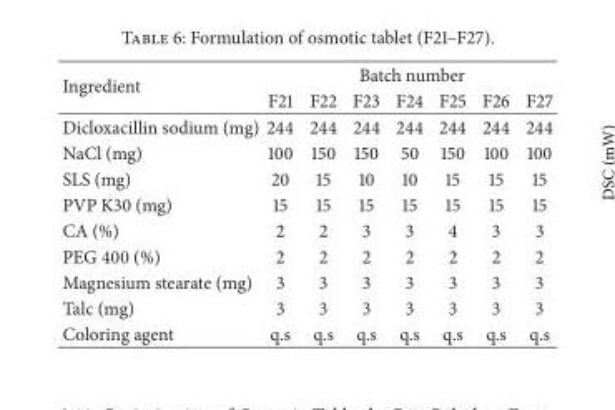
<table><thead><tr><td rowspan="2">Ingredient</td><td colspan="7">Batch number</td></tr><tr><td>F21</td><td>F22</td><td>F23</td><td>F24</td><td>F25</td><td>F26</td><td>F27</td></tr></thead><tbody><tr><td>Dicloxacillin sodium (mg)</td><td>244</td><td>244</td><td>244</td><td>244</td><td>244</td><td>244</td><td>244</td></tr><tr><td>NaCl (mg)</td><td>100</td><td>150</td><td>150</td><td>50</td><td>150</td><td>100</td><td>100</td></tr><tr><td>SLS (mg)</td><td>20</td><td>15</td><td>10</td><td>10</td><td>15</td><td>15</td><td>15</td></tr><tr><td>PVP K30 (mg)</td><td>15</td><td>15</td><td>15</td><td>15</td><td>15</td><td>15</td><td>15</td></tr><tr><td>CA (%)</td><td>2</td><td>2</td><td>3</td><td>3</td><td>4</td><td>3</td><td>3</td></tr><tr><td>PEG 400 (%)</td><td>2</td><td>2</td><td>2</td><td>2</td><td>2</td><td>2</td><td>2</td></tr><tr><td>Magnesium stearate (mg)</td><td>3</td><td>3</td><td>3</td><td>3</td><td>3</td><td>3</td><td>3</td></tr><tr><td>Talc (mg)</td><td>3</td><td>3</td><td>3</td><td>3</td><td>3</td><td>3</td><td>3</td></tr><tr><td>Coloring agent</td><td>q.s</td><td>q.s</td><td>q.s</td><td>q.s</td><td>q.s</td><td>q.s</td><td>q.s</td></tr></tbody></table>